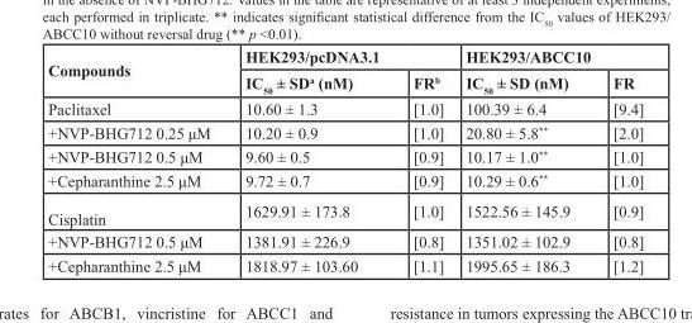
<table><thead><tr><td rowspan="2">Compounds</td><td colspan="2">HEK293/pcDNA3.1</td><td colspan="2">HEK293/ABCC10</td></tr><tr><td>IC<sub>50</sub> ± SD<sup>a</sup> (nM)</td><td>FR<sup>b</sup></td><td>IC<sub>50</sub> ± SD (nM)</td><td>FR</td></tr></thead><tbody><tr><td>Paclitaxel</td><td>10.60 ± 1.3</td><td>[1.0]</td><td>100.39 ± 6.4</td><td>[9.4]</td></tr><tr><td>+NVP-BHG712 0.25 μM</td><td>10.20 ± 0.9</td><td>[1.0]</td><td>20.80 ± 5.8**</td><td>[2.0]</td></tr><tr><td>+NVP-BHG712 0.5 μM</td><td>9.60 ± 0.5</td><td>[0.9]</td><td>10.17 ± 1.0**</td><td>[1.0]</td></tr><tr><td>+Cepharanthine 2.5 μM</td><td>9.72 ± 0.7</td><td>[0.9]</td><td>10.29 ± 0.6**</td><td>[1.0]</td></tr><tr><td>Cisplatin</td><td>1629.91 ± 173.8</td><td>[1.0]</td><td>1522.56 ± 145.9</td><td>[0.9]</td></tr><tr><td>+NVP-BHG712 0.5 μM</td><td>1381.91 ± 226.9</td><td>[0.8]</td><td>1351.02 ± 102.9</td><td>[0.8]</td></tr><tr><td>+Cepharanthine 2.5 μM</td><td>1818.97 ± 103.60</td><td>[1.1]</td><td>1995.65 ± 186.3</td><td>[1.2]</td></tr></tbody></table>